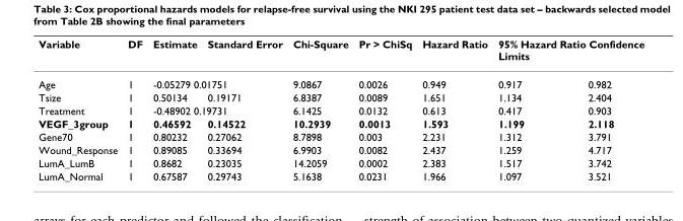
<table><thead><tr><td rowspan="2">Variable Age</td><td rowspan="2">DF 1</td><td>Estimate</td><td>Standard Error</td><td rowspan="2">Chi-Square 9.0867</td><td rowspan="2">Pr &gt; ChiSq 0.0026</td><td rowspan="2">Hazard Ratio 0.949</td><td colspan="2">95% Hazard Ratio Confidence Limits</td></tr><tr><td colspan="2">-0.05279 0.01751</td><td>0.917</td><td>0.982</td></tr></thead><tbody><tr><td>Tsize</td><td>1</td><td>0.50134</td><td>0.19171</td><td>6.8387</td><td>0.0089</td><td>1.651</td><td>1.134</td><td>2.404</td></tr><tr><td>Treatment</td><td>1</td><td colspan="2">-0.48902 0.19731</td><td>6.1425</td><td>0.0132</td><td>0.613</td><td>0.417</td><td>0.903</td></tr><tr><td>VEGF_3group</td><td>1</td><td>0.46592</td><td>0.14522</td><td>10.2939</td><td>0.0013</td><td>1.593</td><td>1.199</td><td>2.118</td></tr><tr><td>Gene70</td><td>1</td><td>0.80232</td><td>0.27062</td><td>8.7898</td><td>0.003</td><td>2.231</td><td>1.312</td><td>3.791</td></tr><tr><td>Wound_Response</td><td>1</td><td>0.89085</td><td>0.33694</td><td>6.9903</td><td>0.0082</td><td>2.437</td><td>1.259</td><td>4.717</td></tr><tr><td>LumA_LumB</td><td>1</td><td>0.8682</td><td>0.23035</td><td>14.2059</td><td>0.0002</td><td>2.383</td><td>1.517</td><td>3.742</td></tr><tr><td>LumA_Normal</td><td>1</td><td>0.67587</td><td>0.29743</td><td>5.1638</td><td>0.0231</td><td>1.966</td><td>1.097</td><td>3.521</td></tr></tbody></table>